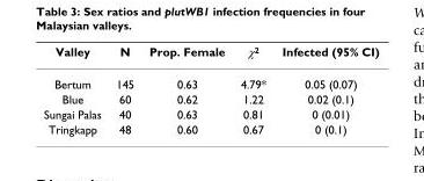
<table><thead><tr><td>Valley</td><td>N</td><td>Prop. Female</td><td>χ<sup>2</sup></td><td>Infected (95% CI)</td></tr></thead><tbody><tr><td>Bertum</td><td>145</td><td>0.63</td><td>4.79*</td><td>0.05 (0.07)</td></tr><tr><td>Blue</td><td>60</td><td>0.62</td><td>1.22</td><td>0.02 (0.1)</td></tr><tr><td>Sungai Palas</td><td>40</td><td>0.63</td><td>0.81</td><td>0 (0.01)</td></tr><tr><td>Tringkapp</td><td>48</td><td>0.60</td><td>0.67</td><td>0 (0.1)</td></tr></tbody></table>